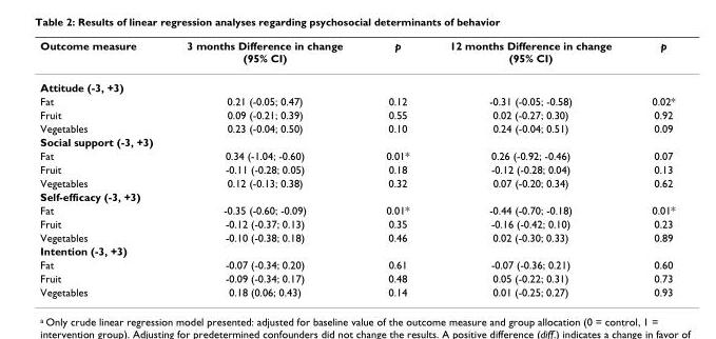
<table><thead><tr><td>Outcome measure</td><td>3 months Difference in change (95% CI)</td><td>p</td><td>12 months Difference in change (95% CI)</td><td>p</td></tr></thead><tbody><tr><td colspan="5">Attitude (-3, +3)</td></tr><tr><td>Fat</td><td>0.21 (-0.05; 0.47)</td><td>0.12</td><td>-0.31 (-0.05; -0.58)</td><td>0.02*</td></tr><tr><td>Fruit</td><td>0.09 (-0.21; 0.39)</td><td>0.55</td><td>0.02 (-0.27; 0.30)</td><td>0.92</td></tr><tr><td>Vegetables</td><td>0.23 (-0.04; 0.50)</td><td>0.10</td><td>0.24 (-0.04; 0.51)</td><td>0.09</td></tr><tr><td colspan="5">Social support (-3, +3)</td></tr><tr><td>Fat</td><td>0.34 (-1.04; -0.60)</td><td>0.01*</td><td>0.26 (-0.92; -0.46)</td><td>0.07</td></tr><tr><td>Fruit</td><td>-0.11 (-0.28; 0.05)</td><td>0.18</td><td>-0.12 (-0.28; 0.04)</td><td>0.13</td></tr><tr><td>Vegetables</td><td>0.12 (-0.13; 0.38)</td><td>0.32</td><td>0.07 (-0.20; 0.34)</td><td>0.62</td></tr><tr><td colspan="5">Self-efficacy (-3, +3)</td></tr><tr><td>Fat</td><td>-0.35 (-0.60; -0.09)</td><td>0.01*</td><td>-0.44 (-0.70; -0.18)</td><td>0.01*</td></tr><tr><td>Fruit</td><td>-0.12 (-0.37; 0.13)</td><td>0.35</td><td>-0.16 (-0.42; 0.10)</td><td>0.23</td></tr><tr><td>Vegetables</td><td>-0.10 (-0.38; 0.18)</td><td>0.46</td><td>0.02 (-0.30; 0.33)</td><td>0.89</td></tr><tr><td colspan="5">Intention (-3, +3)</td></tr><tr><td>Fat</td><td>-0.07 (-0.34; 0.20)</td><td>0.61</td><td>-0.07 (-0.36; 0.21)</td><td>0.60</td></tr><tr><td>Fruit</td><td>-0.09 (-0.34; 0.17)</td><td>0.48</td><td>0.05 (-0.22; 0.31)</td><td>0.73</td></tr><tr><td>Vegetables</td><td>0.18 (0.06; 0.43)</td><td>0.14</td><td>0.01 (-0.25; 0.27)</td><td>0.93</td></tr></tbody></table>